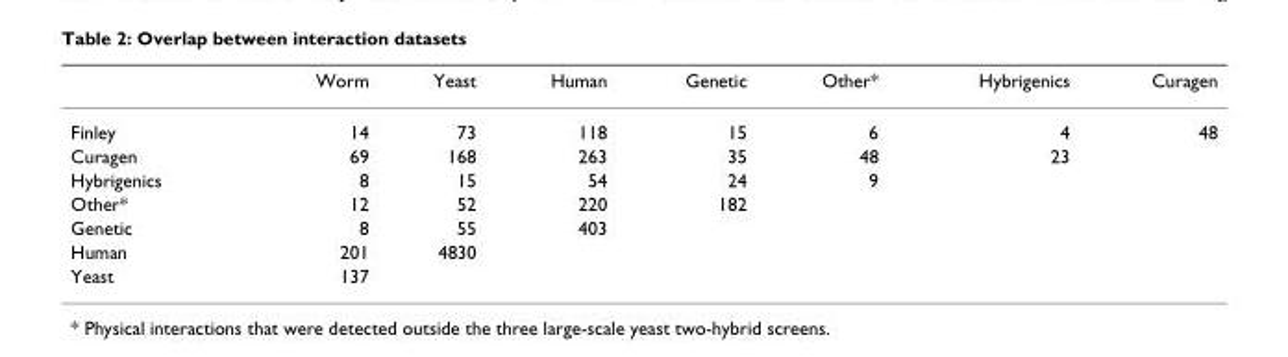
<table><thead><tr><td></td><td>Worm</td><td>Yeast</td><td>Human</td><td>Genetic</td><td>Other*</td><td>Hybrigenics</td><td>Curagen</td></tr></thead><tbody><tr><td>Finley</td><td>14</td><td>73</td><td>118</td><td>15</td><td>6</td><td>4</td><td>48</td></tr><tr><td>Curagen</td><td>69</td><td>168</td><td>263</td><td>35</td><td>48</td><td>23</td><td></td></tr><tr><td>Hybrigenics</td><td>8</td><td>15</td><td>54</td><td>24</td><td>9</td><td></td><td></td></tr><tr><td>Other*</td><td>12</td><td>52</td><td>220</td><td>182</td><td></td><td></td><td></td></tr><tr><td>Genetic</td><td>8</td><td>55</td><td>403</td><td></td><td></td><td></td><td></td></tr><tr><td>Human</td><td>201</td><td>4830</td><td></td><td></td><td></td><td></td><td></td></tr><tr><td>Yeast</td><td>137</td><td></td><td></td><td></td><td></td><td></td><td></td></tr></tbody></table>